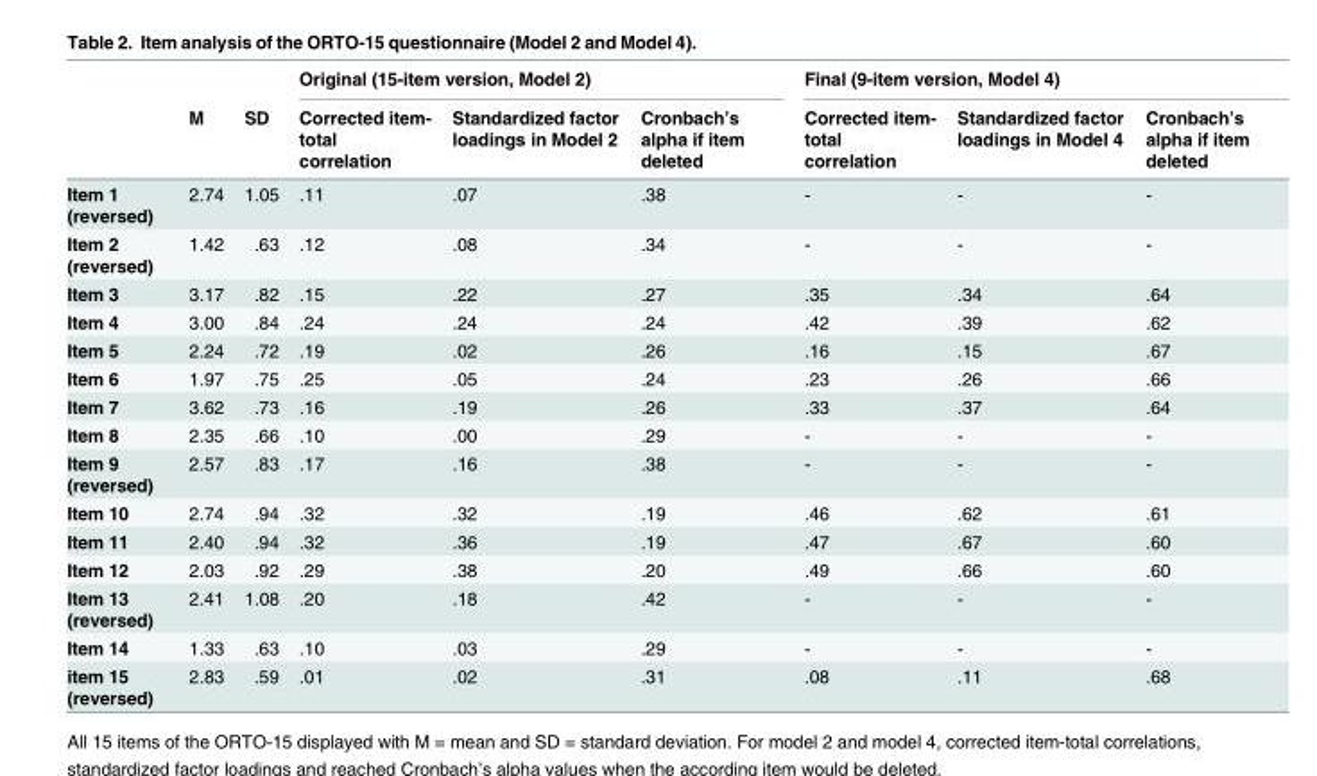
<table><thead><tr><td rowspan="2"></td><td rowspan="2">M</td><td rowspan="2">SD</td><td colspan="3">Original (15-item version, Model 2)</td><td colspan="3">Final (9-item version, Model 4)</td></tr><tr><td>Corrected item- total correlation</td><td>Standardized factor loadings in Model 2</td><td>Cronbach’s alpha if item deleted</td><td>Corrected item- total correlation</td><td>Standardized factor loadings in Model 4</td><td>Cronbach’s alpha if item deleted</td></tr></thead><tbody><tr><td>Item 1 (reversed)</td><td>2.74</td><td>1.05</td><td>.11</td><td>.07</td><td>.38</td><td>-</td><td>-</td><td>-</td></tr><tr><td>Item 2 (reversed)</td><td>1.42</td><td>.63</td><td>.12</td><td>.08</td><td>.34</td><td>-</td><td>-</td><td>-</td></tr><tr><td>Item 3</td><td>3.17</td><td>.82</td><td>.15</td><td>.22</td><td>.27</td><td>.35</td><td>.34</td><td>.64</td></tr><tr><td>Item 4</td><td>3.00</td><td>.84</td><td>.24</td><td>.24</td><td>.24</td><td>.42</td><td>.39</td><td>.62</td></tr><tr><td>Item 5</td><td>2.24</td><td>.72</td><td>.19</td><td>.02</td><td>.26</td><td>.16</td><td>.15</td><td>.67</td></tr><tr><td>Item 6</td><td>1.97</td><td>.75</td><td>.25</td><td>.05</td><td>.24</td><td>.23</td><td>.26</td><td>.66</td></tr><tr><td>Item 7</td><td>3.62</td><td>.73</td><td>.16</td><td>.19</td><td>.26</td><td>.33</td><td>.37</td><td>.64</td></tr><tr><td>Item 8</td><td>2.35</td><td>.66</td><td>.10</td><td>.00</td><td>.29</td><td>-</td><td>-</td><td>-</td></tr><tr><td>Item 9 (reversed)</td><td>2.57</td><td>.83</td><td>.17</td><td>.16</td><td>.38</td><td>-</td><td>-</td><td>-</td></tr><tr><td>Item 10</td><td>2.74</td><td>.94</td><td>.32</td><td>.32</td><td>.19</td><td>.46</td><td>.62</td><td>.61</td></tr><tr><td>Item 11</td><td>2.40</td><td>.94</td><td>.32</td><td>.36</td><td>.19</td><td>.47</td><td>.67</td><td>.60</td></tr><tr><td>Item 12</td><td>2.03</td><td>.92</td><td>.29</td><td>.38</td><td>.20</td><td>.49</td><td>.66</td><td>.60</td></tr><tr><td>Item 13 (reversed)</td><td>2.41</td><td>1.08</td><td>.20</td><td>.18</td><td>.42</td><td>-</td><td>-</td><td>-</td></tr><tr><td>Item 14</td><td>1.33</td><td>.63</td><td>.10</td><td>.03</td><td>.29</td><td>-</td><td>-</td><td>-</td></tr><tr><td>item 15 (reversed)</td><td>2.83</td><td>.59</td><td>.01</td><td>.02</td><td>.31</td><td>.08</td><td>.11</td><td>.68</td></tr></tbody></table>